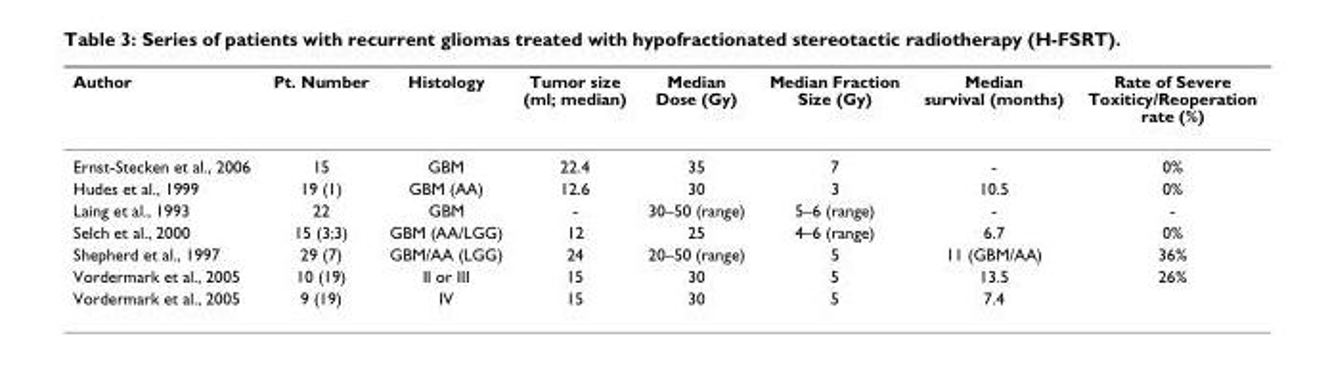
<table><thead><tr><td>Author</td><td>Pt. Number</td><td>Histology</td><td>Tumor size (ml; median)</td><td>Median Dose (Gy)</td><td>Median Fraction Size (Gy)</td><td>Median survival (months)</td><td>Rate of Severe Toxiticy/Reoperation rate (%)</td></tr></thead><tbody><tr><td>Ernst-Stecken et al., 2006</td><td>15</td><td>GBM</td><td>22.4</td><td>35</td><td>7</td><td>-</td><td>0%</td></tr><tr><td>Hudes et al., 1999</td><td>19 (1)</td><td>GBM (AA)</td><td>12.6</td><td>30</td><td>3</td><td>10.5</td><td>0%</td></tr><tr><td>Laing et al., 1993</td><td>22</td><td>GBM</td><td>-</td><td>30–50 (range)</td><td>5–6 (range)</td><td>-</td><td>-</td></tr><tr><td>Selch et al., 2000</td><td>15 (3;3)</td><td>GBM (AA/LGG)</td><td>12</td><td>25</td><td>4–6 (range)</td><td>6.7</td><td>0%</td></tr><tr><td>Shepherd et al., 1997</td><td>29 (7)</td><td>GBM/AA (LGG)</td><td>24</td><td>20–50 (range)</td><td>5</td><td>11 (GBM/AA)</td><td>36%</td></tr><tr><td>Vordermark et al., 2005</td><td>10 (19)</td><td>II or III</td><td>15</td><td>30</td><td>5</td><td>13.5</td><td>26%</td></tr><tr><td>Vordermark et al., 2005</td><td>9 (19)</td><td>IV</td><td>15</td><td>30</td><td>5</td><td>7.4</td><td></td></tr></tbody></table>